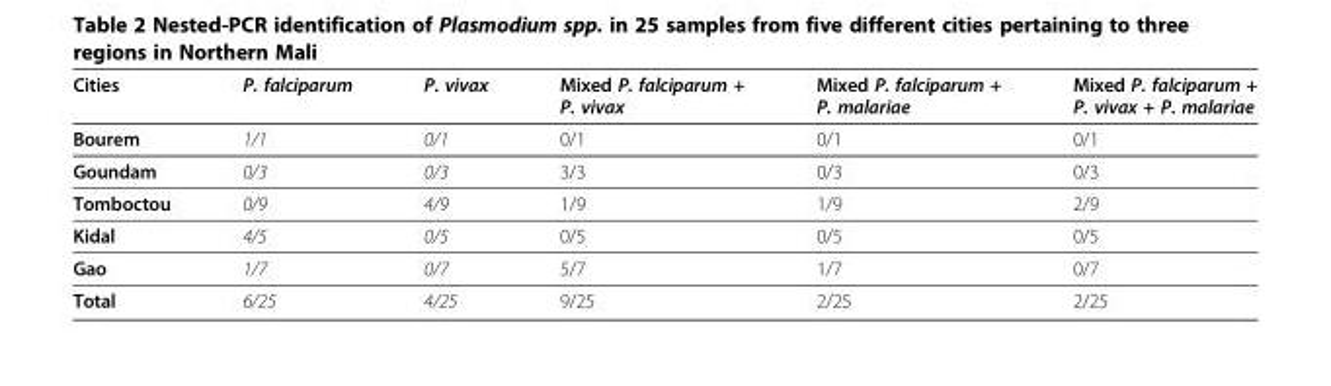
<table><thead><tr><td>Cities</td><td>P. falciparum</td><td>P. vivax</td><td>Mixed P. falciparum + P. vivax</td><td>Mixed P. falciparum + P. malariae</td><td>Mixed P. falciparum + P. vivax + P. malariae</td></tr></thead><tbody><tr><td>Bourem</td><td>1/1</td><td>0/1</td><td>0/1</td><td>0/1</td><td>0/1</td></tr><tr><td>Goundam</td><td>0/3</td><td>0/3</td><td>3/3</td><td>0/3</td><td>0/3</td></tr><tr><td>Tomboctou</td><td>0/9</td><td>4/9</td><td>1/9</td><td>1/9</td><td>2/9</td></tr><tr><td>Kidal</td><td>4/5</td><td>0/5</td><td>0/5</td><td>0/5</td><td>0/5</td></tr><tr><td>Gao</td><td>1/7</td><td>0/7</td><td>5/7</td><td>1/7</td><td>0/7</td></tr><tr><td>Total</td><td>6/25</td><td>4/25</td><td>9/25</td><td>2/25</td><td>2/25</td></tr></tbody></table>